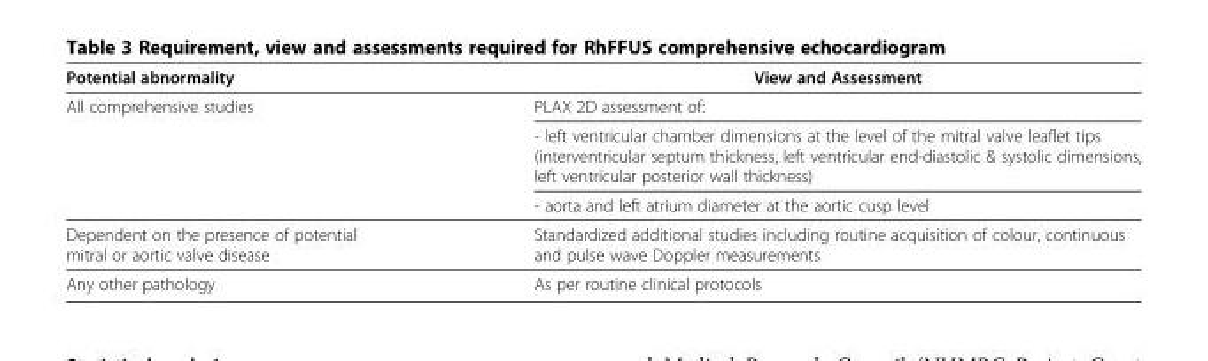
<table><thead><tr><td>Potential abnormality</td><td>View and Assessment</td></tr></thead><tbody><tr><td rowspan="3">All comprehensive studies</td><td>PLAX 2D assessment of:</td></tr><tr><td>- left ventricular chamber dimensions at the level of the mitral valve leaflet tips (interventricular septum thickness, left ventricular end-diastolic &amp; systolic dimensions, left ventricular posterior wall thickness)</td></tr><tr><td>- aorta and left atrium diameter at the aortic cusp level</td></tr><tr><td>Dependent on the presence of potential mitral or aortic valve disease</td><td>Standardized additional studies including routine acquisition of colour, continuous and pulse wave Doppler measurements</td></tr><tr><td>Any other pathology</td><td>As per routine clinical protocols</td></tr></tbody></table>